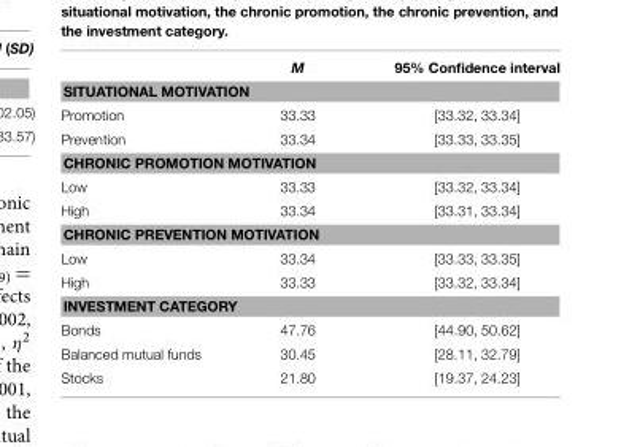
<table><thead><tr><td></td><td>M</td><td>95% Confidence interval</td></tr></thead><tbody><tr><td colspan="3">SITUATIONAL MOTIVATION</td></tr><tr><td>Promotion</td><td>33.33</td><td>[33.32, 33.34]</td></tr><tr><td>Prevention</td><td>33.34</td><td>[33.33, 33.35]</td></tr><tr><td colspan="3">CHRONIC PROMOTION MOTIVATION</td></tr><tr><td>Low</td><td>33.33</td><td>[33.32, 33.34]</td></tr><tr><td>High</td><td>33.34</td><td>[33.31, 33.34]</td></tr><tr><td colspan="3">CHRONIC PREVENTION MOTIVATION</td></tr><tr><td>Low</td><td>33.34</td><td>[33.33, 33.35]</td></tr><tr><td>High</td><td>33.33</td><td>[33.32, 33.34]</td></tr><tr><td colspan="3">INVESTMENT CATEGORY</td></tr><tr><td>Bonds</td><td>47.76</td><td>[44.90, 50.62]</td></tr><tr><td>Balanced mutual funds</td><td>30.45</td><td>[28.11, 32.79]</td></tr><tr><td>Stocks</td><td>21.80</td><td>[19.37, 24.23]</td></tr></tbody></table>